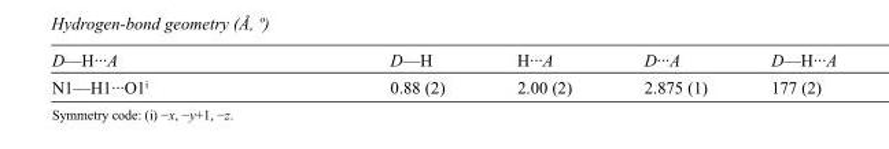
<table><tbody><tr><td>D—H···A</td><td>D—H</td><td>H···A</td><td>D···A</td><td>D—H···A</td></tr><tr><td>N1—H1···O1<sup>i</sup></td><td>0.88 (2)</td><td>2.00 (2)</td><td>2.875 (1)</td><td>177 (2)</td></tr></tbody></table>